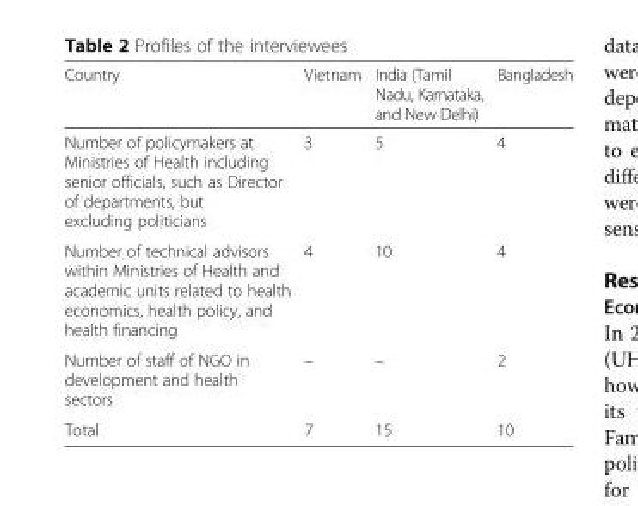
<table><thead><tr><td>Country</td><td>Vietnam</td><td>India (Tamil Nadu, Karnataka, and New Delhi)</td><td>Bangladesh</td></tr></thead><tbody><tr><td>Number of policymakers at Ministries of Health including senior officials, such as Director of departments, but excluding politicians</td><td>3</td><td>5</td><td>4</td></tr><tr><td>Number of technical advisors within Ministries of Health and academic units related to health economics, health policy, and health financing</td><td>4</td><td>10</td><td>4</td></tr><tr><td>Number of staff of NGO in development and health sectors</td><td>–</td><td>–</td><td>2</td></tr><tr><td>Total</td><td>7</td><td>15</td><td>10</td></tr></tbody></table>